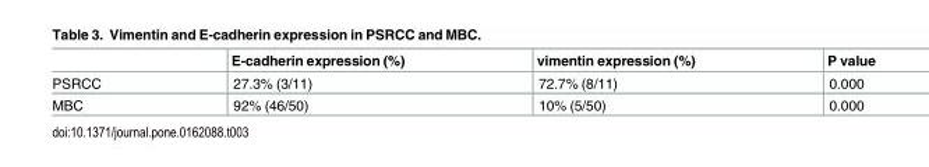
<table><thead><tr><td></td><td>E-cadherin expression (%)</td><td>vimentin expression (%)</td><td>P value</td></tr></thead><tbody><tr><td>PSRCC</td><td>27.3% (3/11)</td><td>72.7% (8/11)</td><td>0.000</td></tr><tr><td>MBC</td><td>92% (46/50)</td><td>10% (5/50)</td><td>0.000</td></tr></tbody></table>